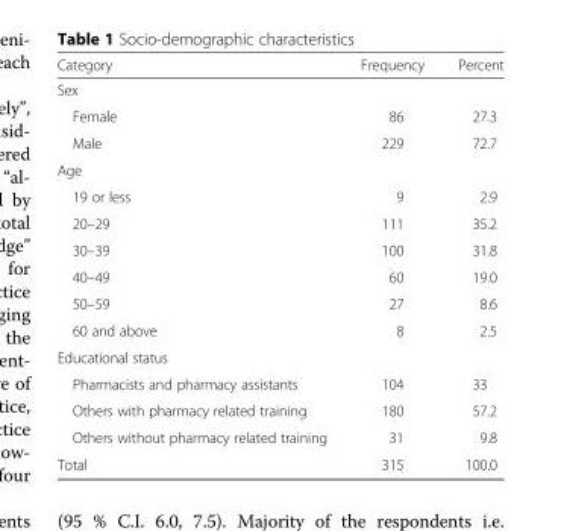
<table><thead><tr><td>Category</td><td>Frequency</td><td>Percent</td></tr></thead><tbody><tr><td colspan="3">Sex</td></tr><tr><td>Female</td><td>86</td><td>27.3</td></tr><tr><td>Male</td><td>229</td><td>72.7</td></tr><tr><td colspan="3">Age</td></tr><tr><td>19 or less</td><td>9</td><td>2.9</td></tr><tr><td>20–29</td><td>111</td><td>35.2</td></tr><tr><td>30–39</td><td>100</td><td>31.8</td></tr><tr><td>40–49</td><td>60</td><td>19.0</td></tr><tr><td>50–59</td><td>27</td><td>8.6</td></tr><tr><td>60 and above</td><td>8</td><td>2.5</td></tr><tr><td colspan="3">Educational status</td></tr><tr><td>Pharmacists and pharmacy assistants</td><td>104</td><td>33</td></tr><tr><td>Others with pharmacy related training</td><td>180</td><td>57.2</td></tr><tr><td>Others without pharmacy related training</td><td>31</td><td>9.8</td></tr><tr><td>Total</td><td>315</td><td>100.0</td></tr></tbody></table>